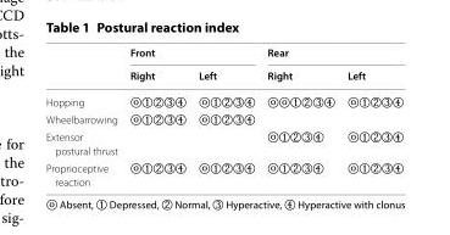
<table><thead><tr><td rowspan="2"></td><td colspan="2">Front</td><td colspan="2">Rear</td></tr><tr><td>Right</td><td>Left</td><td>Right</td><td>Left</td></tr></thead><tbody><tr><td>Hopping</td><td>ⓞ①②③④</td><td>ⓞ①②③④</td><td>ⓞⓞ①②③④</td><td>ⓞ①②③④</td></tr><tr><td>Wheelbarrowing</td><td>ⓞ①②③④</td><td>ⓞ①②③④</td><td></td><td></td></tr><tr><td>Extensor postural thrust</td><td></td><td></td><td>ⓞ①②③④</td><td>ⓞ①②③④</td></tr><tr><td>Proprioceptive reaction</td><td>ⓞ①②③④</td><td>ⓞ①②③④</td><td>ⓞ①②③④</td><td>ⓞ①②③④</td></tr></tbody></table>